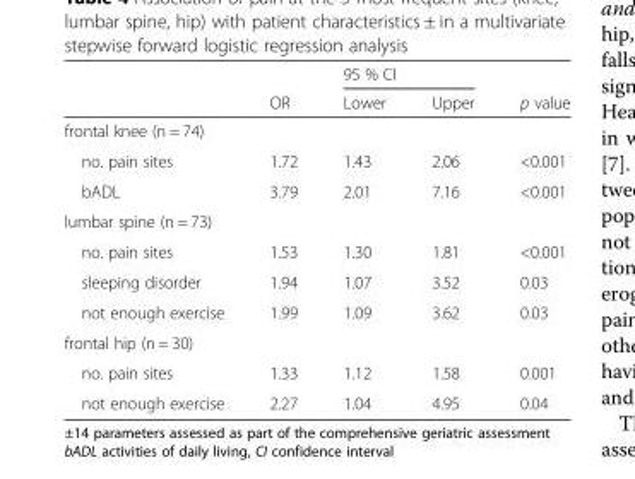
<table><thead><tr><td rowspan="2"></td><td rowspan="2">OR</td><td colspan="2">95 % CI</td><td rowspan="2">p value</td></tr><tr><td>Lower</td><td>Upper</td></tr></thead><tbody><tr><td colspan="5">frontal knee (n = 74)</td></tr><tr><td>no. pain sites</td><td>1.72</td><td>1.43</td><td>2.06</td><td>&lt;0.001</td></tr><tr><td>bADL</td><td>3.79</td><td>2.01</td><td>7.16</td><td>&lt;0.001</td></tr><tr><td colspan="5">lumbar spine (n = 73)</td></tr><tr><td>no. pain sites</td><td>1.53</td><td>1.30</td><td>1.81</td><td>&lt;0.001</td></tr><tr><td>sleeping disorder</td><td>1.94</td><td>1.07</td><td>3.52</td><td>0.03</td></tr><tr><td>not enough exercise</td><td>1.99</td><td>1.09</td><td>3.62</td><td>0.03</td></tr><tr><td colspan="5">frontal hip (n = 30)</td></tr><tr><td>no. pain sites</td><td>1.33</td><td>1.12</td><td>1.58</td><td>0.001</td></tr><tr><td>not enough exercise</td><td>2.27</td><td>1.04</td><td>4.95</td><td>0.04</td></tr></tbody></table>